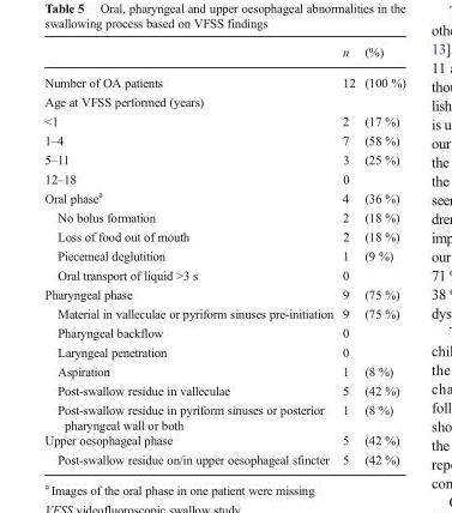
<table><thead><tr><td></td><td>n</td><td>(%)</td></tr></thead><tbody><tr><td>Number of OA patients</td><td>12</td><td>(100 %)</td></tr><tr><td colspan="3">Age at VFSS performed (years)</td></tr><tr><td>&lt;1</td><td>2</td><td>(17 %)</td></tr><tr><td>1–4</td><td>7</td><td>(58 %)</td></tr><tr><td>5–11</td><td>3</td><td>(25 %)</td></tr><tr><td>12–18</td><td>0</td><td></td></tr><tr><td>Oral phase<sup>a</sup></td><td>4</td><td>(36 %)</td></tr><tr><td>No bolus formation</td><td>2</td><td>(18 %)</td></tr><tr><td>Loss of food out of mouth</td><td>2</td><td>(18 %)</td></tr><tr><td>Piecemeal deglutition</td><td>1</td><td>(9 %)</td></tr><tr><td>Oral transport of liquid &gt;3 s</td><td>0</td><td></td></tr><tr><td>Pharyngeal phase</td><td>9</td><td>(75 %)</td></tr><tr><td>Material in valleculae or pyriform sinuses pre-initiation</td><td>9</td><td>(75 %)</td></tr><tr><td>Pharyngeal backflow</td><td>0</td><td></td></tr><tr><td>Laryngeal penetration</td><td>0</td><td></td></tr><tr><td>Aspiration</td><td>1</td><td>(8 %)</td></tr><tr><td>Post-swallow residue in valleculae</td><td>5</td><td>(42 %)</td></tr><tr><td>Post-swallow residue in pyriform sinuses or posterior pharyngeal wall or both</td><td>1</td><td>(8 %)</td></tr><tr><td>Upper oesophageal phase</td><td>5</td><td>(42 %)</td></tr><tr><td>Post-swallow residue on/in upper oesophageal sfincter</td><td>5</td><td>(42 %)</td></tr></tbody></table>